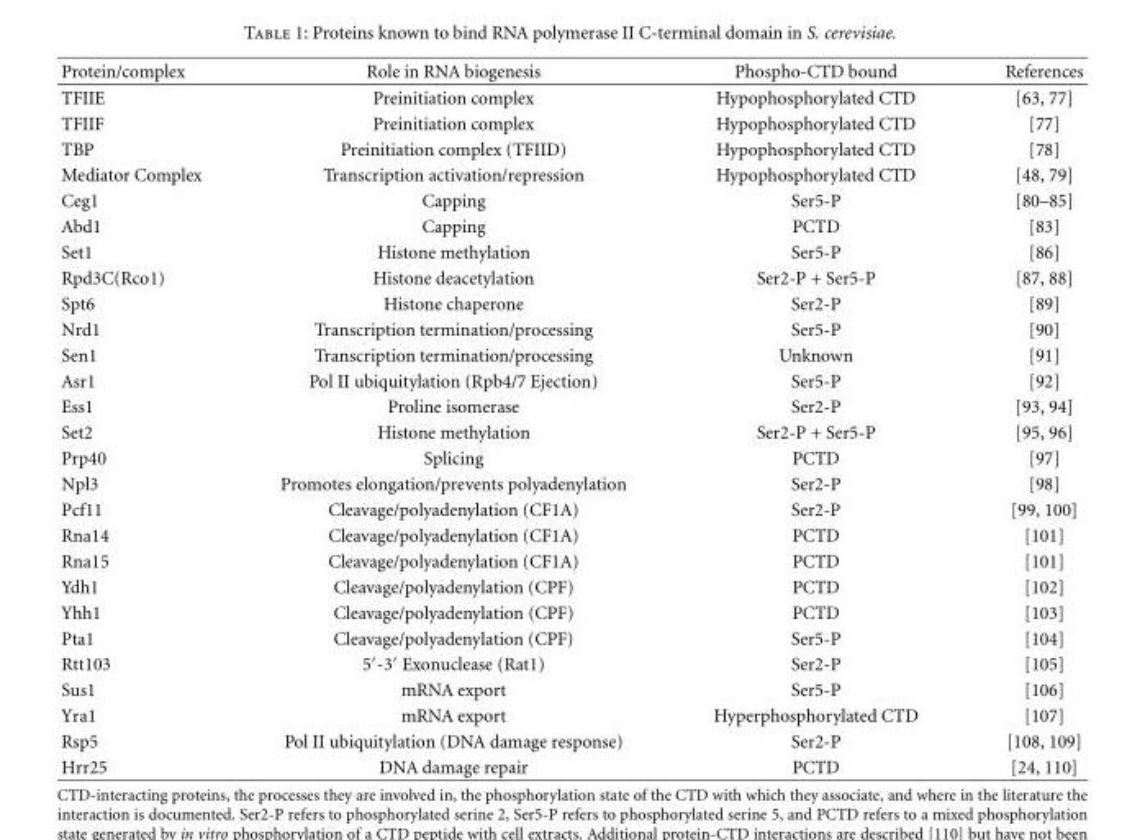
<table><thead><tr><td>Protein/complex</td><td>Role in RNA biogenesis</td><td>Phospho-CTD bound</td><td>References</td></tr></thead><tbody><tr><td>TFIIE</td><td>Preinitiation complex</td><td>Hypophosphorylated CTD</td><td>[63, 77]</td></tr><tr><td>TFIIF</td><td>Preinitiation complex</td><td>Hypophosphorylated CTD</td><td>[77]</td></tr><tr><td>TBP</td><td>Preinitiation complex (TFIID)</td><td>Hypophosphorylated CTD</td><td>[78]</td></tr><tr><td>Mediator Complex</td><td>Transcription activation/repression</td><td>Hypophosphorylated CTD</td><td>[48, 79]</td></tr><tr><td>Ceg1</td><td>Capping</td><td>Ser5-P</td><td>[80–85]</td></tr><tr><td>Abd1</td><td>Capping</td><td>PCTD</td><td>[83]</td></tr><tr><td>Set1</td><td>Histone methylation</td><td>Ser5-P</td><td>[86]</td></tr><tr><td>Rpd3C(Rco1)</td><td>Histone deacetylation</td><td>Ser2-P + Ser5-P</td><td>[87, 88]</td></tr><tr><td>Spt6</td><td>Histone chaperone</td><td>Ser2-P</td><td>[89]</td></tr><tr><td>Nrd1</td><td>Transcription termination/processing</td><td>Ser5-P</td><td>[90]</td></tr><tr><td>Sen1</td><td>Transcription termination/processing</td><td>Unknown</td><td>[91]</td></tr><tr><td>Asr1</td><td>Pol II ubiquitylation (Rpb4/7 Ejection)</td><td>Ser5-P</td><td>[92]</td></tr><tr><td>Ess1</td><td>Proline isomerase</td><td>Ser2-P</td><td>[93, 94]</td></tr><tr><td>Set2</td><td>Histone methylation</td><td>Ser2-P + Ser5-P</td><td>[95, 96]</td></tr><tr><td>Prp40</td><td>Splicing</td><td>PCTD</td><td>[97]</td></tr><tr><td>Npl3</td><td>Promotes elongation/prevents polyadenylation</td><td>Ser2-P</td><td>[98]</td></tr><tr><td>Pcf11</td><td>Cleavage/polyadenylation (CF1A)</td><td>Ser2-P</td><td>[99, 100]</td></tr><tr><td>Rna14</td><td>Cleavage/polyadenylation (CF1A)</td><td>PCTD</td><td>[101]</td></tr><tr><td>Rna15</td><td>Cleavage/polyadenylation (CF1A)</td><td>PCTD</td><td>[101]</td></tr><tr><td>Ydh1</td><td>Cleavage/polyadenylation (CPF)</td><td>PCTD</td><td>[102]</td></tr><tr><td>Yhh1</td><td>Cleavage/polyadenylation (CPF)</td><td>PCTD</td><td>[103]</td></tr><tr><td>Pta1</td><td>Cleavage/polyadenylation (CPF)</td><td>Ser5-P</td><td>[104]</td></tr><tr><td>Rtt103</td><td>5′-3′ Exonuclease (Rat1)</td><td>Ser2-P</td><td>[105]</td></tr><tr><td>Sus1</td><td>mRNA export</td><td>Ser5-P</td><td>[106]</td></tr><tr><td>Yra1</td><td>mRNA export</td><td>Hyperphosphorylated CTD</td><td>[107]</td></tr><tr><td>Rsp5</td><td>Pol II ubiquitylation (DNA damage response)</td><td>Ser2-P</td><td>[108, 109]</td></tr><tr><td>Hrr25</td><td>DNA damage repair</td><td>PCTD</td><td>[24, 110]</td></tr></tbody></table>